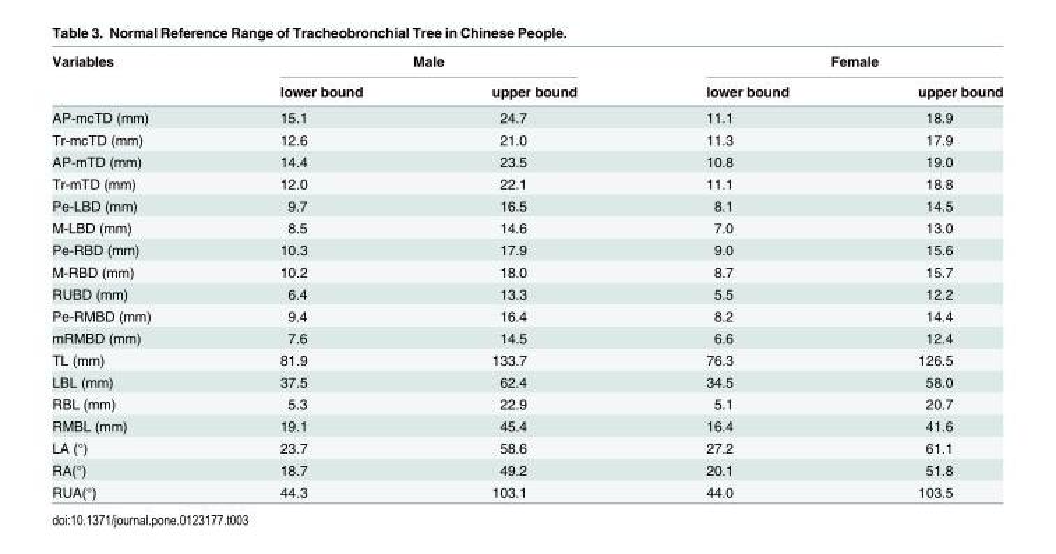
<table><thead><tr><td rowspan="2">Variables</td><td colspan="2">Male</td><td colspan="2">Female</td></tr><tr><td>lower bound</td><td>upper bound</td><td>lower bound</td><td>upper bound</td></tr></thead><tbody><tr><td>AP-mcTD (mm)</td><td>15.1</td><td>24.7</td><td>11.1</td><td>18.9</td></tr><tr><td>Tr-mcTD (mm)</td><td>12.6</td><td>21.0</td><td>11.3</td><td>17.9</td></tr><tr><td>AP-mTD (mm)</td><td>14.4</td><td>23.5</td><td>10.8</td><td>19.0</td></tr><tr><td>Tr-mTD (mm)</td><td>12.0</td><td>22.1</td><td>11.1</td><td>18.8</td></tr><tr><td>Pe-LBD (mm)</td><td>9.7</td><td>16.5</td><td>8.1</td><td>14.5</td></tr><tr><td>M-LBD (mm)</td><td>8.5</td><td>14.6</td><td>7.0</td><td>13.0</td></tr><tr><td>Pe-RBD (mm)</td><td>10.3</td><td>17.9</td><td>9.0</td><td>15.6</td></tr><tr><td>M-RBD (mm)</td><td>10.2</td><td>18.0</td><td>8.7</td><td>15.7</td></tr><tr><td>RUBD (mm)</td><td>6.4</td><td>13.3</td><td>5.5</td><td>12.2</td></tr><tr><td>Pe-RMBD (mm)</td><td>9.4</td><td>16.4</td><td>8.2</td><td>14.4</td></tr><tr><td>mRMBD (mm)</td><td>7.6</td><td>14.5</td><td>6.6</td><td>12.4</td></tr><tr><td>TL (mm)</td><td>81.9</td><td>133.7</td><td>76.3</td><td>126.5</td></tr><tr><td>LBL (mm)</td><td>37.5</td><td>62.4</td><td>34.5</td><td>58.0</td></tr><tr><td>RBL (mm)</td><td>5.3</td><td>22.9</td><td>5.1</td><td>20.7</td></tr><tr><td>RMBL (mm)</td><td>19.1</td><td>45.4</td><td>16.4</td><td>41.6</td></tr><tr><td>LA (°)</td><td>23.7</td><td>58.6</td><td>27.2</td><td>61.1</td></tr><tr><td>RA(°)</td><td>18.7</td><td>49.2</td><td>20.1</td><td>51.8</td></tr><tr><td>RUA(°)</td><td>44.3</td><td>103.1</td><td>44.0</td><td>103.5</td></tr></tbody></table>